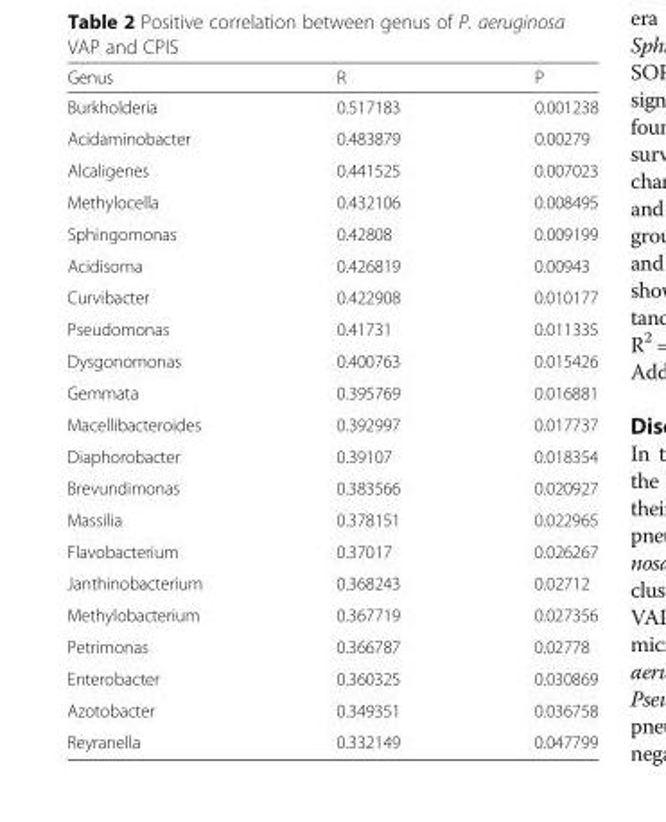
<table><thead><tr><td>Genus</td><td>R</td><td>P</td></tr></thead><tbody><tr><td>Burkholderia</td><td>0.517183</td><td>0.001238</td></tr><tr><td>Acidaminobacter</td><td>0.483879</td><td>0.00279</td></tr><tr><td>Alcaligenes</td><td>0.441525</td><td>0.007023</td></tr><tr><td>Methylocella</td><td>0.432106</td><td>0.008495</td></tr><tr><td>Sphingomonas</td><td>0.42808</td><td>0.009199</td></tr><tr><td>Acidisoma</td><td>0.426819</td><td>0.00943</td></tr><tr><td>Curvibacter</td><td>0.422908</td><td>0.010177</td></tr><tr><td>Pseudomonas</td><td>0.41731</td><td>0.011335</td></tr><tr><td>Dysgonomonas</td><td>0.400763</td><td>0.015426</td></tr><tr><td>Gemmata</td><td>0.395769</td><td>0.016881</td></tr><tr><td>Macellibacteroides</td><td>0.392997</td><td>0.017737</td></tr><tr><td>Diaphorobacter</td><td>0.39107</td><td>0.018354</td></tr><tr><td>Brevundimonas</td><td>0.383566</td><td>0.020927</td></tr><tr><td>Massilia</td><td>0.378151</td><td>0.022965</td></tr><tr><td>Flavobacterium</td><td>0.37017</td><td>0.026267</td></tr><tr><td>Janthinobacterium</td><td>0.368243</td><td>0.02712</td></tr><tr><td>Methylobacterium</td><td>0.367719</td><td>0.027356</td></tr><tr><td>Petrimonas</td><td>0.366787</td><td>0.02778</td></tr><tr><td>Enterobacter</td><td>0.360325</td><td>0.030869</td></tr><tr><td>Azotobacter</td><td>0.349351</td><td>0.036758</td></tr><tr><td>Reyranella</td><td>0.332149</td><td>0.047799</td></tr></tbody></table>